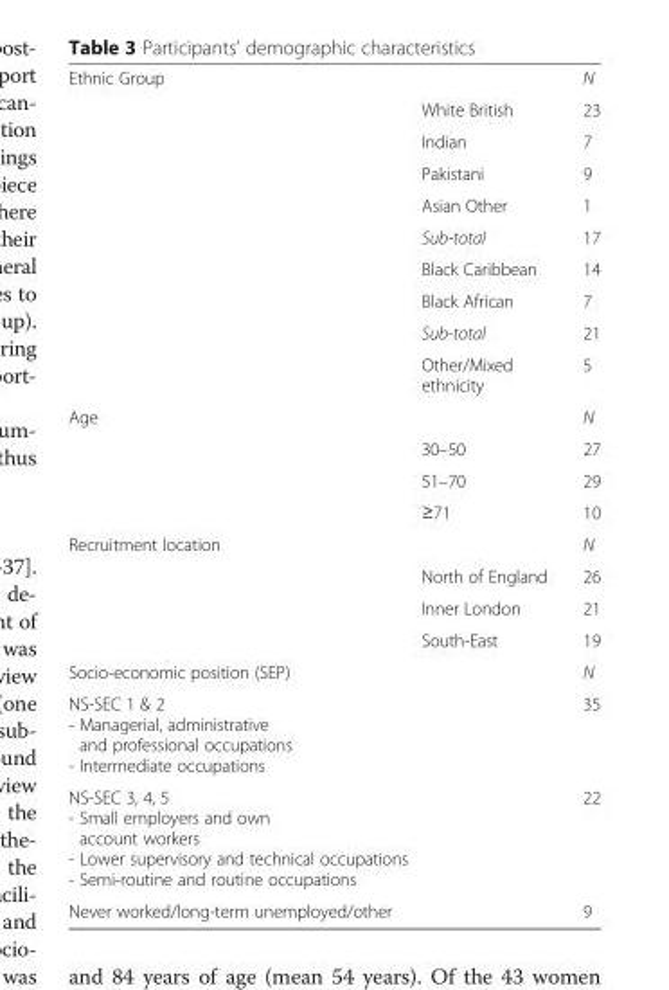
<table><tbody><tr><td colspan="2">Ethnic Group</td><td>N</td></tr><tr><td rowspan="5"></td><td>White British</td><td>23</td></tr><tr><td>Indian</td><td>7</td></tr><tr><td>Pakistani</td><td>9</td></tr><tr><td>Asian Other</td><td>1</td></tr><tr><td>Sub-total</td><td>17</td></tr><tr><td rowspan="4"></td><td>Black Caribbean</td><td>14</td></tr><tr><td>Black African</td><td>7</td></tr><tr><td>Sub-total</td><td>21</td></tr><tr><td>Other/Mixed ethnicity</td><td>5</td></tr><tr><td rowspan="4">Age</td><td></td><td>N</td></tr><tr><td>30–50</td><td>27</td></tr><tr><td>51–70</td><td>29</td></tr><tr><td>≥71</td><td>10</td></tr><tr><td rowspan="4">Recruitment location</td><td></td><td>N</td></tr><tr><td>North of England</td><td>26</td></tr><tr><td>Inner London</td><td>21</td></tr><tr><td>South-East</td><td>19</td></tr><tr><td>Socio-economic position (SEP)</td><td></td><td>N</td></tr><tr><td>NS-SEC 1 &amp; 2 - Managerial, administrative and professional occupations - Intermediate occupations</td><td></td><td>35</td></tr><tr><td>NS-SEC 3, 4, 5 - Small employers and own account workers - Lower supervisory and technical occupations - Semi-routine and routine occupations</td><td></td><td>22</td></tr><tr><td>Never worked/long-term unemployed/other</td><td></td><td>9</td></tr></tbody></table>